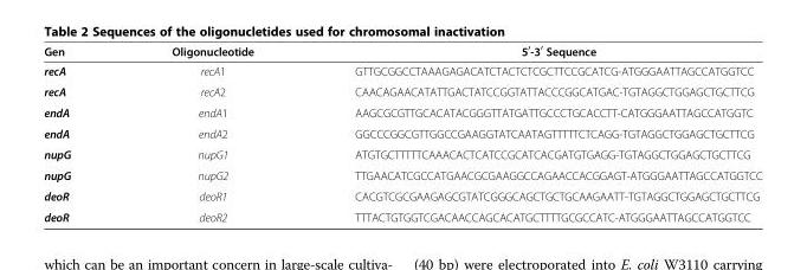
<table><thead><tr><td>Gen</td><td>Oligonucleotide</td><td>5<sup>′</sup>-3<sup>′</sup> Sequence</td></tr></thead><tbody><tr><td>recA</td><td>recA1</td><td>GTTGCGGCCTAAAGAGACATCTACTCTCGCTTCCGCATCG-ATGGGAATTAGCCATGGTCC</td></tr><tr><td>recA</td><td>recA2</td><td>CAACAGAACATATTGACTATCCGGTATTACCCGGCATGAC-TGTAGGCTGGAGCTGCTTCG</td></tr><tr><td>endA</td><td>endA1</td><td>AAGCGCGTTGCACATACGGGTTATGATTGCCCTGCACCTT-CATGGGAATTAGCCATGGTC</td></tr><tr><td>endA</td><td>endA2</td><td>GGCCCGGCGTTGGCCGAAGGTATCAATAGTTTTTCTCAGG-TGTAGGCTGGAGCTGCTTCG</td></tr><tr><td>nupG</td><td>nupG1</td><td>ATGTGCTTTTTCAAACACTCATCCGCATCACGATGTGAGG-TGTAGGCTGGAGCTGCTTCG</td></tr><tr><td>nupG</td><td>nupG2</td><td>TTGAACATCGCCATGAACGCGAAGGCCAGAACCACGGAGT-ATGGGAATTAGCCATGGTCC</td></tr><tr><td>deoR</td><td>deoR1</td><td>CACGTCGCGAAGAGCGTATCGGGCAGCTGCTGCAAGAATT-TGTAGGCTGGAGCTGCTTCG</td></tr><tr><td>deoR</td><td>deoR2</td><td>TTTACTGTGGTCGACAACCAGCACATGCTTTTGCGCCATC-ATGGGAATTAGCCATGGTCC</td></tr></tbody></table>